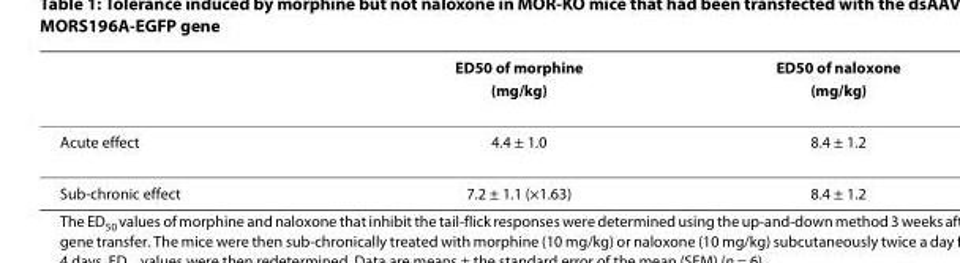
<table><thead><tr><td></td><td>ED<sub>50</sub> of morphine (mg/kg)</td><td>ED<sub>50</sub> of naloxone (mg/kg)</td></tr></thead><tbody><tr><td>Acute effect</td><td>4.4 ± 1.0</td><td>8.4 ± 1.2</td></tr><tr><td>Sub-chronic effect</td><td>7.2 ± 1.1 (×1.63)</td><td>8.4 ± 1.2</td></tr></tbody></table>